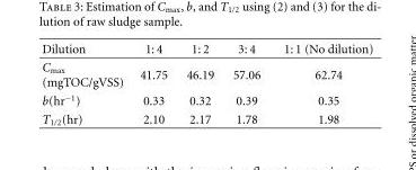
<table><thead><tr><td>Dilution</td><td>1: 4</td><td>1: 2</td><td>3: 4</td><td>1: 1 (No dilution)</td></tr></thead><tbody><tr><td>C<sub>max</sub> (mgTOC/gVSS)</td><td>41.75</td><td>46.19</td><td>57.06</td><td>62.74</td></tr><tr><td>b(hr<sup>−1</sup>)</td><td>0.33</td><td>0.32</td><td>0.39</td><td>0.35</td></tr><tr><td>T<sub>1/2</sub>(hr)</td><td>2.10</td><td>2.17</td><td>1.78</td><td>1.98</td></tr></tbody></table>